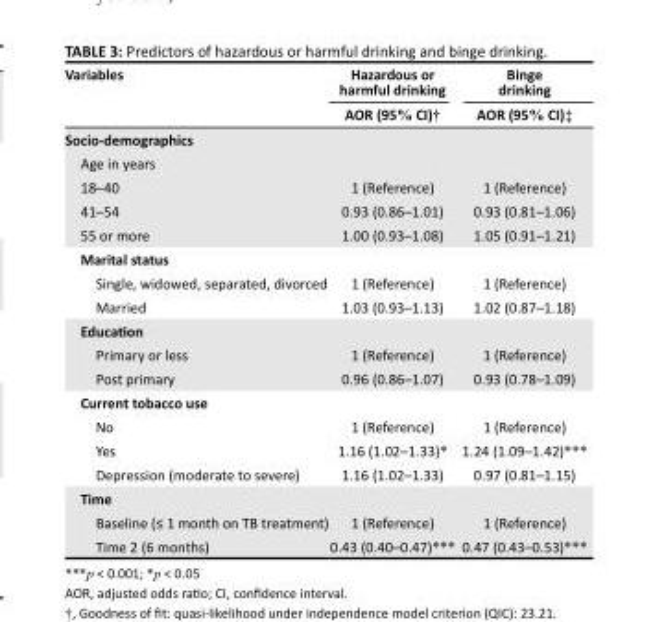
<table><thead><tr><td rowspan="2">Variables</td><td rowspan="2">Hazardous or harmful drinking AOR (95% CI)†</td><td rowspan="2">Binge drinking AOR (95% CI)‡</td></tr><tr></tr></thead><tbody><tr><td colspan="3">Socio-demographics</td></tr><tr><td colspan="3">Age in years</td></tr><tr><td>18–40</td><td>1 (Reference)</td><td>1 (Reference)</td></tr><tr><td>41–54</td><td>0.93 (0.86–1.01)</td><td>0.93 (0.81–1.06)</td></tr><tr><td>55 or more</td><td>1.00 (0.93–1.08)</td><td>1.05 (0.91–1.21)</td></tr><tr><td colspan="3">Marital status</td></tr><tr><td>Single, widowed, separated, divorced</td><td>1 (Reference)</td><td>1 (Reference)</td></tr><tr><td>Married</td><td>1.03 (0.93–1.13)</td><td>1.02 (0.87–1.18)</td></tr><tr><td colspan="3">Education</td></tr><tr><td>Primary or less</td><td>1 (Reference)</td><td>1 (Reference)</td></tr><tr><td>Post primary</td><td>0.96 (0.86–1.07)</td><td>0.93 (0.78–1.09)</td></tr><tr><td colspan="3">Current tobacco use</td></tr><tr><td>No</td><td>1 (Reference)</td><td>1 (Reference)</td></tr><tr><td>Yes</td><td>1.16 (1.02–1.33)*</td><td>1.24 (1.09–1.42)***</td></tr><tr><td>Depression (moderate to severe)</td><td>1.16 (1.02–1.33)</td><td>0.97 (0.81–1.15)</td></tr><tr><td colspan="3">Time</td></tr><tr><td>Baseline (≤ 1 month on TB treatment)</td><td>1 (Reference)</td><td>1 (Reference)</td></tr><tr><td>Time 2 (6 months)</td><td>0.43 (0.40–0.47)***</td><td>0.47 (0.43–0.53)***</td></tr></tbody></table>